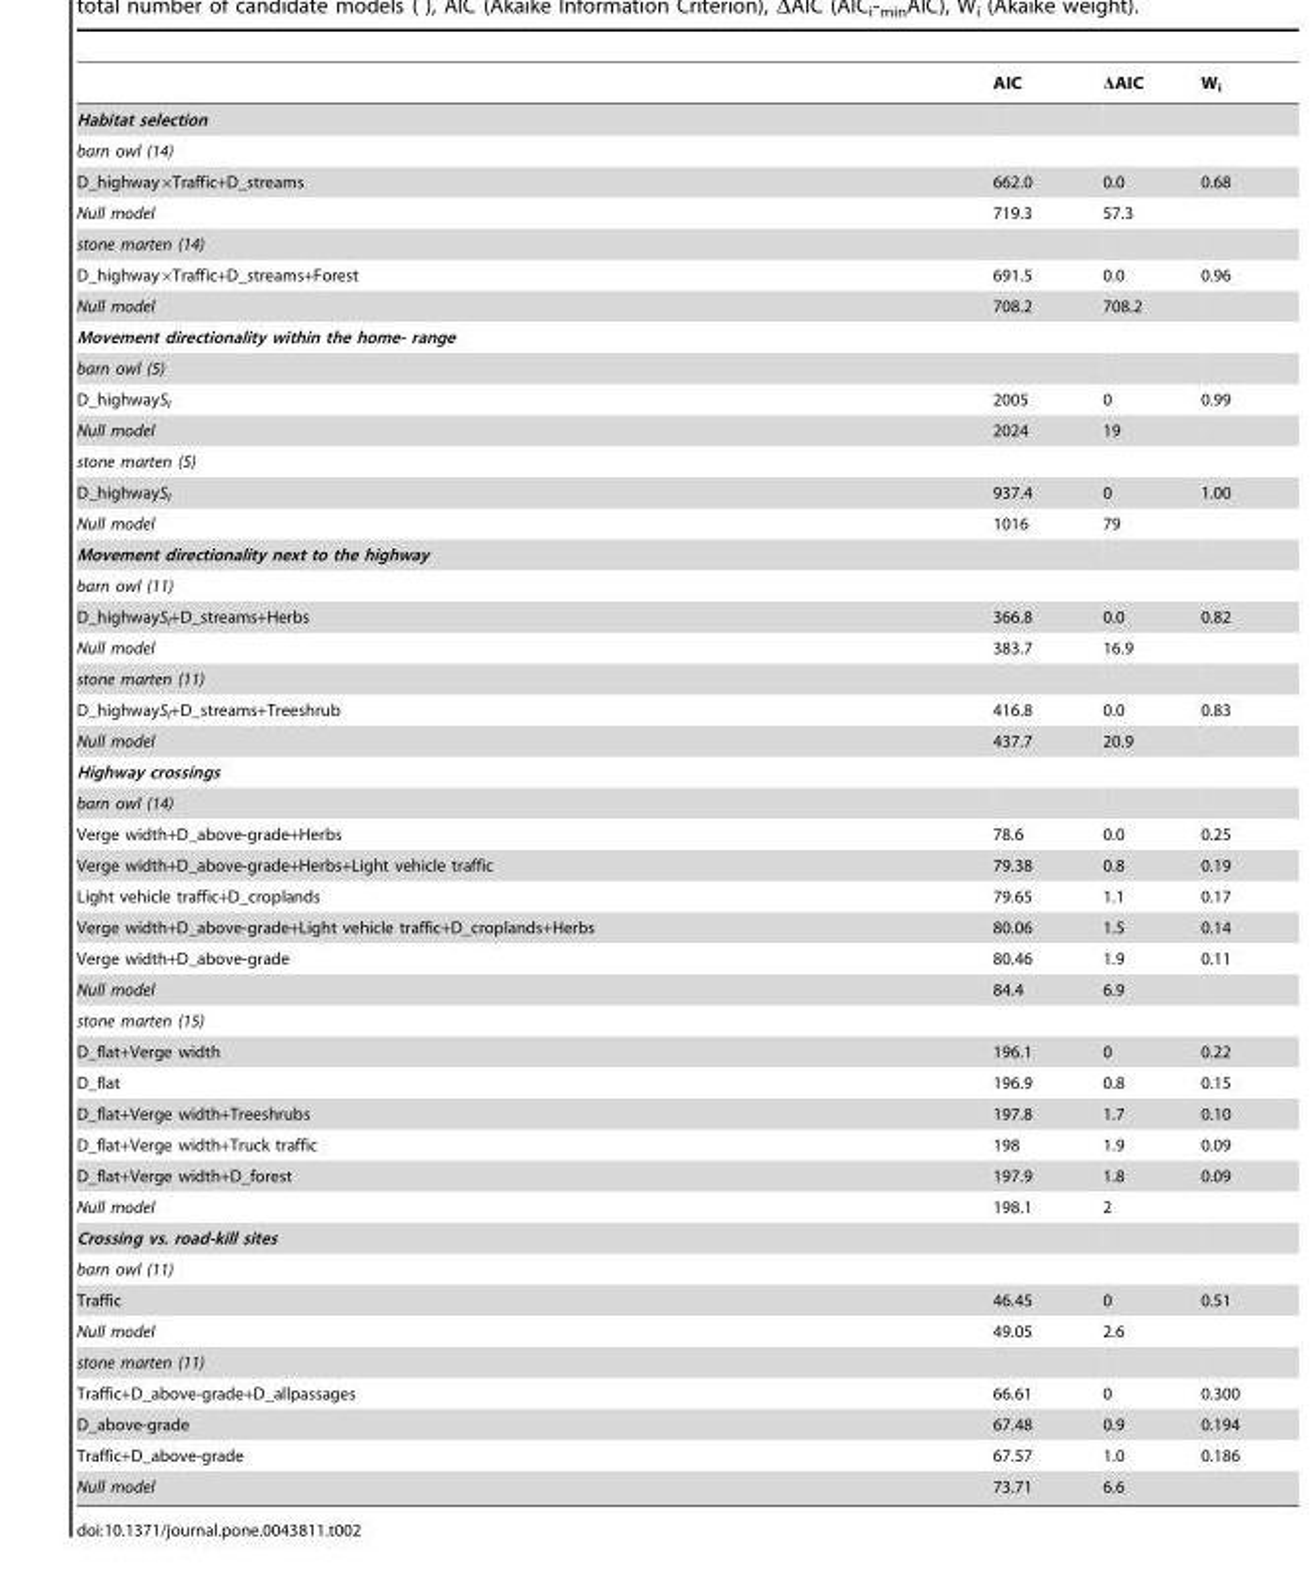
<table><thead><tr><td></td><td>AIC</td><td>ΔAIC</td><td>W<sub>i</sub></td></tr></thead><tbody><tr><td colspan="4">Habitat selection</td></tr><tr><td colspan="4">barn owl (14)</td></tr><tr><td>D_highway×Traffic+D_streams</td><td>662.0</td><td>0.0</td><td>0.68</td></tr><tr><td>Null model</td><td>719.3</td><td>57.3</td><td></td></tr><tr><td colspan="4">stone marten (14)</td></tr><tr><td>D_highway×Traffic+D_streams+Forest</td><td>691.5</td><td>0.0</td><td>0.96</td></tr><tr><td>Null model</td><td>708.2</td><td>708.2</td><td></td></tr><tr><td colspan="4">Movement directionality within the home- range</td></tr><tr><td colspan="4">barn owl (5)</td></tr><tr><td>D_highwayS<sub>l</sub></td><td>2005</td><td>0</td><td>0.99</td></tr><tr><td>Null model</td><td>2024</td><td>19</td><td></td></tr><tr><td colspan="4">stone marten (5)</td></tr><tr><td>D_highwayS<sub>l</sub></td><td>937.4</td><td>0</td><td>1.00</td></tr><tr><td>Null model</td><td>1016</td><td>79</td><td></td></tr><tr><td colspan="4">Movement directionality next to the highway</td></tr><tr><td colspan="4">barn owl (11)</td></tr><tr><td>D_highwayS<sub>l</sub>+D_streams+Herbs</td><td>366.8</td><td>0.0</td><td>0.82</td></tr><tr><td>Null model</td><td>383.7</td><td>16.9</td><td></td></tr><tr><td colspan="4">stone marten (11)</td></tr><tr><td>D_highwayS<sub>l</sub>+D_streams+Treeshrub</td><td>416.8</td><td>0.0</td><td>0.83</td></tr><tr><td>Null model</td><td>437.7</td><td>20.9</td><td></td></tr><tr><td colspan="4">Highway crossings</td></tr><tr><td colspan="4">barn owl (14)</td></tr><tr><td>Verge width+D_above-grade+Herbs</td><td>78.6</td><td>0.0</td><td>0.25</td></tr><tr><td>Verge width+D_above-grade+Herbs+Light vehicle traffic</td><td>79.38</td><td>0.8</td><td>0.19</td></tr><tr><td>Light vehicle traffic+D_croplands</td><td>79.65</td><td>1.1</td><td>0.17</td></tr><tr><td>Verge width+D_above-grade+Light vehicle traffic+D_croplands+Herbs</td><td>80.06</td><td>1.5</td><td>0.14</td></tr><tr><td>Verge width+D_above-grade</td><td>80.46</td><td>1.9</td><td>0.11</td></tr><tr><td>Null model</td><td>84.4</td><td>6.9</td><td></td></tr><tr><td colspan="4">stone marten (15)</td></tr><tr><td>D_flat+Verge width</td><td>196.1</td><td>0</td><td>0.22</td></tr><tr><td>D_flat</td><td>196.9</td><td>0.8</td><td>0.15</td></tr><tr><td>D_flat+Verge width+Treeshrubs</td><td>197.8</td><td>1.7</td><td>0.10</td></tr><tr><td>D_flat+Verge width+Truck traffic</td><td>198</td><td>1.9</td><td>0.09</td></tr><tr><td>D_flat+Verge width+D_forest</td><td>197.9</td><td>1.8</td><td>0.09</td></tr><tr><td>Null model</td><td>198.1</td><td>2</td><td></td></tr><tr><td colspan="4">Crossing vs. road-kill sites</td></tr><tr><td colspan="4">barn owl (11)</td></tr><tr><td>Traffic</td><td>46.45</td><td>0</td><td>0.51</td></tr><tr><td>Null model</td><td>49.05</td><td>2.6</td><td></td></tr><tr><td colspan="4">stone marten (11)</td></tr><tr><td>Traffic+D_above-grade+D_allpassages</td><td>66.61</td><td>0</td><td>0.300</td></tr><tr><td>D_above-grade</td><td>67.48</td><td>0.9</td><td>0.194</td></tr><tr><td>Traffic+D_above-grade</td><td>67.57</td><td>1.0</td><td>0.186</td></tr><tr><td>Null model</td><td>73.71</td><td>6.6</td><td></td></tr></tbody></table>